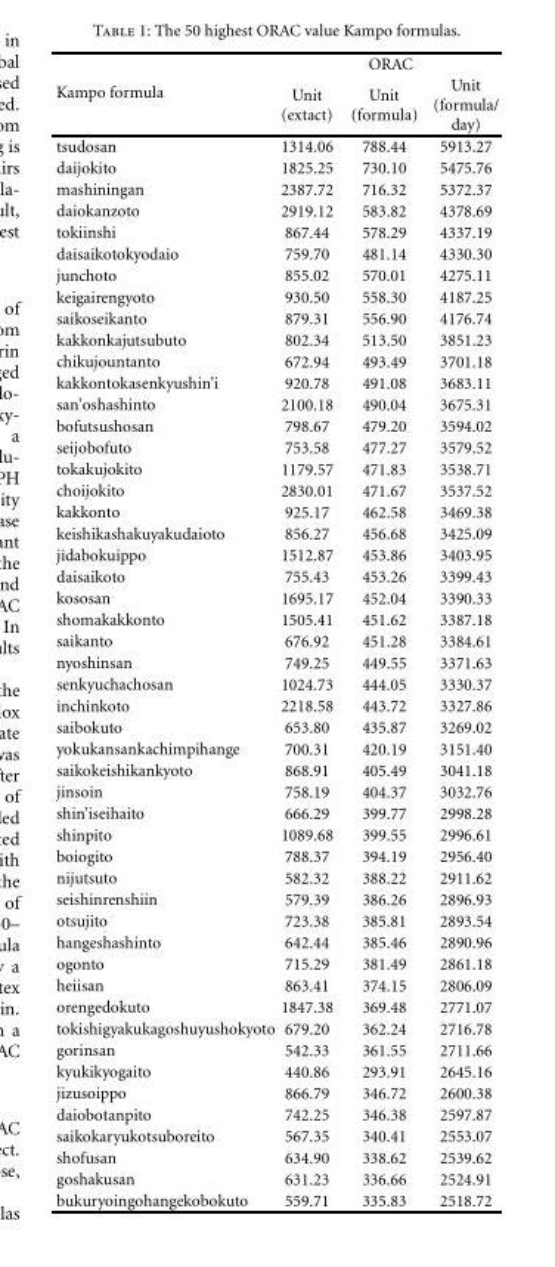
<table><thead><tr><td rowspan="2">Kampo formula</td><td colspan="3">ORAC</td></tr><tr><td>Unit (extact)</td><td>Unit (formula)</td><td>Unit (formula/ day)</td></tr></thead><tbody><tr><td>tsudosan</td><td>1314.06</td><td>788.44</td><td>5913.27</td></tr><tr><td>daijokito</td><td>1825.25</td><td>730.10</td><td>5475.76</td></tr><tr><td>mashiningan</td><td>2387.72</td><td>716.32</td><td>5372.37</td></tr><tr><td>daiokanzoto</td><td>2919.12</td><td>583.82</td><td>4378.69</td></tr><tr><td>tokiinshi</td><td>867.44</td><td>578.29</td><td>4337.19</td></tr><tr><td>daisaikotokyodaio</td><td>759.70</td><td>481.14</td><td>4330.30</td></tr><tr><td>junchoto</td><td>855.02</td><td>570.01</td><td>4275.11</td></tr><tr><td>keigairengyoto</td><td>930.50</td><td>558.30</td><td>4187.25</td></tr><tr><td>saikoseikanto</td><td>879.31</td><td>556.90</td><td>4176.74</td></tr><tr><td>kakkonkajutsubuto</td><td>802.34</td><td>513.50</td><td>3851.23</td></tr><tr><td>chikujountanto</td><td>672.94</td><td>493.49</td><td>3701.18</td></tr><tr><td>kakkontokasenkyushin’i</td><td>920.78</td><td>491.08</td><td>3683.11</td></tr><tr><td>san’oshashinto</td><td>2100.18</td><td>490.04</td><td>3675.31</td></tr><tr><td>bofutsushosan</td><td>798.67</td><td>479.20</td><td>3594.02</td></tr><tr><td>seijobofuto</td><td>753.58</td><td>477.27</td><td>3579.52</td></tr><tr><td>tokakujokito</td><td>1179.57</td><td>471.83</td><td>3538.71</td></tr><tr><td>choijokito</td><td>2830.01</td><td>471.67</td><td>3537.52</td></tr><tr><td>kakkonto</td><td>925.17</td><td>462.58</td><td>3469.38</td></tr><tr><td>keishikashakuyakudaioto</td><td>856.27</td><td>456.68</td><td>3425.09</td></tr><tr><td>jidabokuippo</td><td>1512.87</td><td>453.86</td><td>3403.95</td></tr><tr><td>daisaikoto</td><td>755.43</td><td>453.26</td><td>3399.43</td></tr><tr><td>kososan</td><td>1695.17</td><td>452.04</td><td>3390.33</td></tr><tr><td>shomakakkonto</td><td>1505.41</td><td>451.62</td><td>3387.18</td></tr><tr><td>saikanto</td><td>676.92</td><td>451.28</td><td>3384.61</td></tr><tr><td>nyoshinsan</td><td>749.25</td><td>449.55</td><td>3371.63</td></tr><tr><td>senkyuchachosan</td><td>1024.73</td><td>444.05</td><td>3330.37</td></tr><tr><td>inchinkoto</td><td>2218.58</td><td>443.72</td><td>3327.86</td></tr><tr><td>saibokuto</td><td>653.80</td><td>435.87</td><td>3269.02</td></tr><tr><td>yokukansankachimpihange</td><td>700.31</td><td>420.19</td><td>3151.40</td></tr><tr><td>saikokeishikankyoto</td><td>868.91</td><td>405.49</td><td>3041.18</td></tr><tr><td>jinsoin</td><td>758.19</td><td>404.37</td><td>3032.76</td></tr><tr><td>shin’iseihaito</td><td>666.29</td><td>399.77</td><td>2998.28</td></tr><tr><td>shinpito</td><td>1089.68</td><td>399.55</td><td>2996.61</td></tr><tr><td>boiogito</td><td>788.37</td><td>394.19</td><td>2956.40</td></tr><tr><td>nijutsuto</td><td>582.32</td><td>388.22</td><td>2911.62</td></tr><tr><td>seishinrenshiin</td><td>579.39</td><td>386.26</td><td>2896.93</td></tr><tr><td>otsujito</td><td>723.38</td><td>385.81</td><td>2893.54</td></tr><tr><td>hangeshashinto</td><td>642.44</td><td>385.46</td><td>2890.96</td></tr><tr><td>ogonto</td><td>715.29</td><td>381.49</td><td>2861.18</td></tr><tr><td>heiisan</td><td>863.41</td><td>374.15</td><td>2806.09</td></tr><tr><td>orengedokuto</td><td>1847.38</td><td>369.48</td><td>2771.07</td></tr><tr><td>tokishigyakukagoshuyushokyoto</td><td>679.20</td><td>362.24</td><td>2716.78</td></tr><tr><td>gorinsan</td><td>542.33</td><td>361.55</td><td>2711.66</td></tr><tr><td>kyukikyogaito</td><td>440.86</td><td>293.91</td><td>2645.16</td></tr><tr><td>jizusoippo</td><td>866.79</td><td>346.72</td><td>2600.38</td></tr><tr><td>daiobotanpito</td><td>742.25</td><td>346.38</td><td>2597.87</td></tr><tr><td>saikokaryukotsuboreito</td><td>567.35</td><td>340.41</td><td>2553.07</td></tr><tr><td>shofusan</td><td>634.90</td><td>338.62</td><td>2539.62</td></tr><tr><td>goshakusan</td><td>631.23</td><td>336.66</td><td>2524.91</td></tr><tr><td>bukuryoingohangekobokuto</td><td>559.71</td><td>335.83</td><td>2518.72</td></tr></tbody></table>